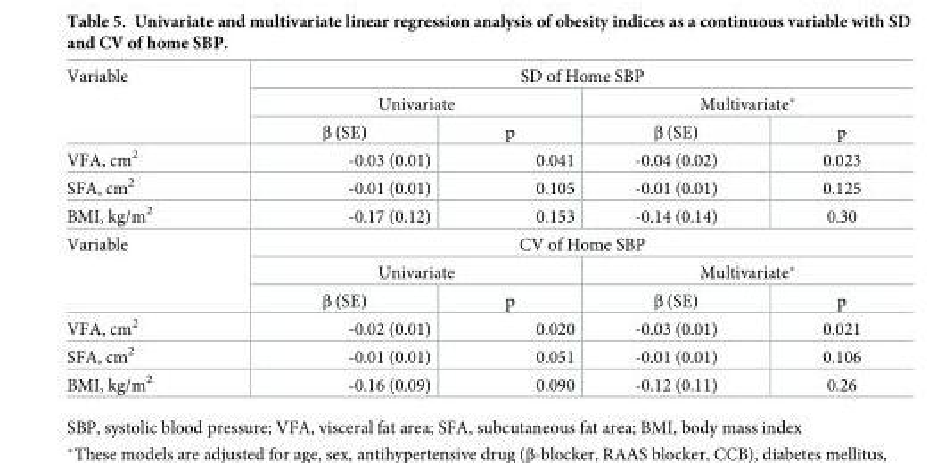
<table><tbody><tr><td rowspan="3">Variable</td><td colspan="4">SD of Home SBP</td></tr><tr><td colspan="2">Univariate</td><td colspan="2">Multivariate*</td></tr><tr><td>β (SE)</td><td>p</td><td>β (SE)</td><td>p</td></tr><tr><td>VFA, cm<sup>2</sup></td><td>-0.03 (0.01)</td><td>0.041</td><td>-0.04 (0.02)</td><td>0.023</td></tr><tr><td>SFA, cm<sup>2</sup></td><td>-0.01 (0.01)</td><td>0.105</td><td>-0.01 (0.01)</td><td>0.125</td></tr><tr><td>BMI, kg/m<sup>2</sup></td><td>-0.17 (0.12)</td><td>0.153</td><td>-0.14 (0.14)</td><td>0.30</td></tr><tr><td rowspan="3">Variable</td><td colspan="4">CV of Home SBP</td></tr><tr><td colspan="2">Univariate</td><td colspan="2">Multivariate*</td></tr><tr><td>β (SE)</td><td>p</td><td>β (SE)</td><td>p</td></tr><tr><td>VFA, cm<sup>2</sup></td><td>-0.02 (0.01)</td><td>0.020</td><td>-0.03 (0.01)</td><td>0.021</td></tr><tr><td>SFA, cm<sup>2</sup></td><td>-0.01 (0.01)</td><td>0.051</td><td>-0.01 (0.01)</td><td>0.106</td></tr><tr><td>BMI, kg/m<sup>2</sup></td><td>-0.16 (0.09)</td><td>0.090</td><td>-0.12 (0.11)</td><td>0.26</td></tr></tbody></table>